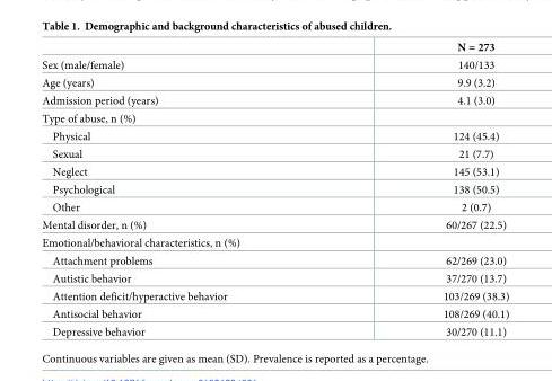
<table><thead><tr><td></td><td>N = 273</td></tr></thead><tbody><tr><td>Sex (male/female)</td><td>140/133</td></tr><tr><td>Age (years)</td><td>9.9 (3.2)</td></tr><tr><td>Admission period (years)</td><td>4.1 (3.0)</td></tr><tr><td colspan="2">Type of abuse, n (%)</td></tr><tr><td>Physical</td><td>124 (45.4)</td></tr><tr><td>Sexual</td><td>21 (7.7)</td></tr><tr><td>Neglect</td><td>145 (53.1)</td></tr><tr><td>Psychological</td><td>138 (50.5)</td></tr><tr><td>Other</td><td>2 (0.7)</td></tr><tr><td>Mental disorder, n (%)</td><td>60/267 (22.5)</td></tr><tr><td colspan="2">Emotional/behavioral characteristics, n (%)</td></tr><tr><td>Attachment problems</td><td>62/269 (23.0)</td></tr><tr><td>Autistic behavior</td><td>37/270 (13.7)</td></tr><tr><td>Attention deficit/hyperactive behavior</td><td>103/269 (38.3)</td></tr><tr><td>Antisocial behavior</td><td>108/269 (40.1)</td></tr><tr><td>Depressive behavior</td><td>30/270 (11.1)</td></tr></tbody></table>